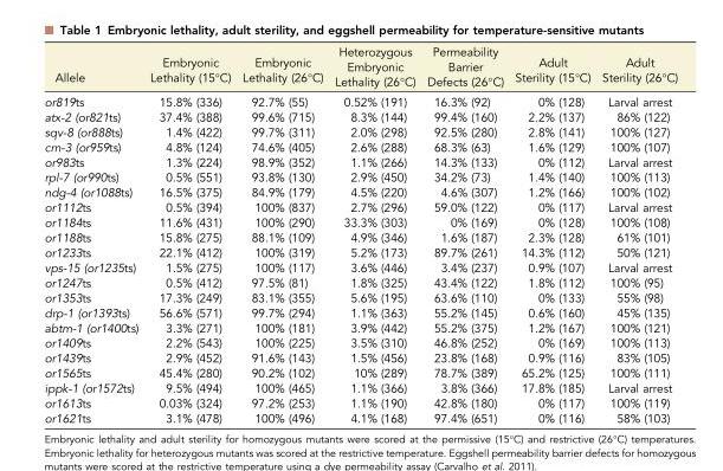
<table><thead><tr><td>Allele</td><td>Embryonic Lethality (15°C)</td><td>Embryonic Lethality (26°C)</td><td>Heterozygous Embryonic Lethality (26°C)</td><td>Permeability Barrier Defects (26°C)</td><td>Adult Sterility (15°C)</td><td>Adult Sterility (26°C)</td></tr></thead><tbody><tr><td>or819ts</td><td>15.8% (336)</td><td>92.7% (55)</td><td>0.52% (191)</td><td>16.3% (92)</td><td>0% (128)</td><td>Larval arrest</td></tr><tr><td>atx-2 (or821ts)</td><td>37.4% (388)</td><td>99.6% (715)</td><td>8.3% (144)</td><td>99.4% (160)</td><td>2.2% (137)</td><td>86% (122)</td></tr><tr><td>sqv-8 (or888ts)</td><td>1.4% (422)</td><td>99.7% (311)</td><td>2.0% (298)</td><td>92.5% (280)</td><td>2.8% (141)</td><td>100% (127)</td></tr><tr><td>crn-3 (or959ts)</td><td>4.8% (124)</td><td>74.6% (405)</td><td>2.6% (288)</td><td>68.3% (63)</td><td>1.6% (129)</td><td>100% (107)</td></tr><tr><td>or983ts</td><td>1.3% (224)</td><td>98.9% (352)</td><td>1.1% (266)</td><td>14.3% (133)</td><td>0% (112)</td><td>Larval arrest</td></tr><tr><td>rpl-7 (or990ts)</td><td>0.5% (551)</td><td>93.8% (130)</td><td>2.9% (450)</td><td>34.2% (73)</td><td>1.4% (140)</td><td>100% (113)</td></tr><tr><td>ndg-4 (or1088ts)</td><td>16.5% (375)</td><td>84.9% (179)</td><td>4.5% (220)</td><td>4.6% (307)</td><td>1.2% (166)</td><td>100% (102)</td></tr><tr><td>or1112ts</td><td>0.5% (394)</td><td>100% (837)</td><td>2.7% (296)</td><td>59.0% (122)</td><td>0% (117)</td><td>Larval arrest</td></tr><tr><td>or1184ts</td><td>11.6% (431)</td><td>100% (290)</td><td>33.3% (303)</td><td>0% (169)</td><td>0% (128)</td><td>100% (108)</td></tr><tr><td>or1188ts</td><td>15.8% (275)</td><td>88.1% (109)</td><td>4.9% (346)</td><td>1.6% (187)</td><td>2.3% (128)</td><td>61% (101)</td></tr><tr><td>or1233ts</td><td>22.1% (412)</td><td>100% (319)</td><td>5.2% (173)</td><td>89.7% (261)</td><td>14.3% (112)</td><td>50% (121)</td></tr><tr><td>vps-15 (or1235ts)</td><td>1.5% (275)</td><td>100% (117)</td><td>3.6% (446)</td><td>3.4% (237)</td><td>0.9% (107)</td><td>Larval arrest</td></tr><tr><td>or1247ts</td><td>0.5% (412)</td><td>97.5% (81)</td><td>1.8% (325)</td><td>43.4% (122)</td><td>1.8% (112)</td><td>100% (95)</td></tr><tr><td>or1353ts</td><td>17.3% (249)</td><td>83.1% (355)</td><td>5.6% (195)</td><td>63.6% (110)</td><td>0% (133)</td><td>55% (98)</td></tr><tr><td>drp-1 (or1393ts)</td><td>56.6% (571)</td><td>99.7% (294)</td><td>1.1% (363)</td><td>55.2% (145)</td><td>0.6% (160)</td><td>45% (135)</td></tr><tr><td>abtm-1 (or1400ts)</td><td>3.3% (271)</td><td>100% (181)</td><td>3.9% (442)</td><td>55.2% (375)</td><td>1.2% (167)</td><td>100% (121)</td></tr><tr><td>or1409ts</td><td>2.2% (543)</td><td>100% (225)</td><td>3.5% (310)</td><td>46.8% (252)</td><td>0% (169)</td><td>100% (113)</td></tr><tr><td>or1439ts</td><td>2.9% (452)</td><td>91.6% (143)</td><td>1.5% (456)</td><td>23.8% (168)</td><td>0.9% (116)</td><td>83% (105)</td></tr><tr><td>or1565ts</td><td>45.4% (280)</td><td>90.2% (102)</td><td>10% (289)</td><td>78.7% (389)</td><td>65.2% (125)</td><td>100% (111)</td></tr><tr><td>ippk-1 (or1572ts)</td><td>9.5% (494)</td><td>100% (465)</td><td>1.1% (366)</td><td>3.8% (366)</td><td>17.8% (185)</td><td>Larval arrest</td></tr><tr><td>or1613ts</td><td>0.03% (324)</td><td>97.2% (253)</td><td>1.1% (190)</td><td>42.8% (180)</td><td>0% (117)</td><td>100% (119)</td></tr><tr><td>or1621ts</td><td>3.1% (478)</td><td>100% (496)</td><td>4.1% (168)</td><td>97.4% (651)</td><td>0% (116)</td><td>58% (103)</td></tr></tbody></table>